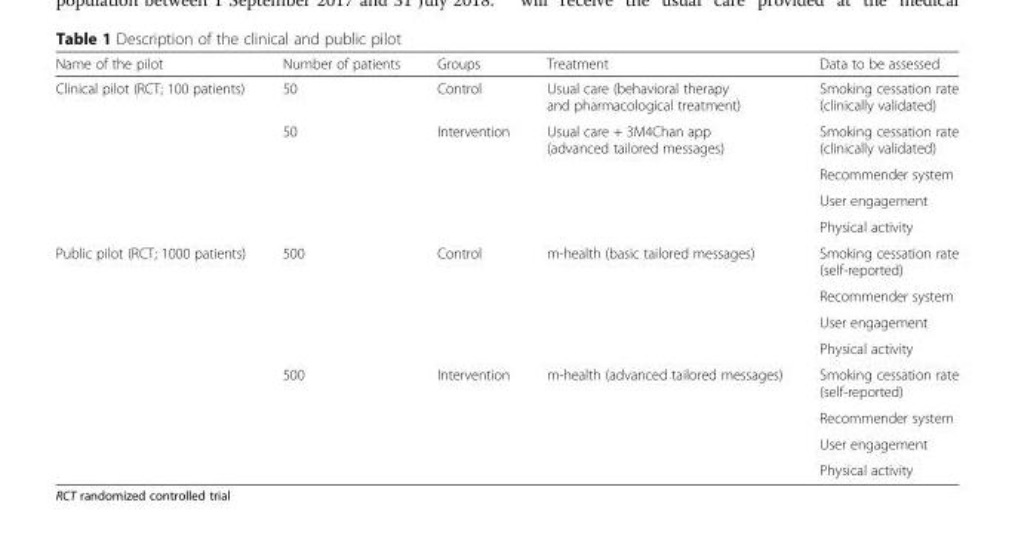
<table><thead><tr><td>Name of the pilot</td><td>Number of patients</td><td>Groups</td><td>Treatment</td><td>Data to be assessed</td></tr></thead><tbody><tr><td rowspan="5">Clinical pilot (RCT; 100 patients)</td><td>50</td><td>Control</td><td>Usual care (behavioral therapy and pharmacological treatment)</td><td>Smoking cessation rate (clinically validated)</td></tr><tr><td rowspan="4">50</td><td rowspan="4">Intervention</td><td rowspan="4">Usual care + 3M4Chan app (advanced tailored messages)</td><td>Smoking cessation rate (clinically validated)</td></tr><tr><td>Recommender system</td></tr><tr><td>User engagement</td></tr><tr><td>Physical activity</td></tr><tr><td rowspan="8">Public pilot (RCT; 1000 patients)</td><td rowspan="4">500</td><td rowspan="4">Control</td><td rowspan="4">m-health (basic tailored messages)</td><td>Smoking cessation rate (self-reported)</td></tr><tr><td>Recommender system</td></tr><tr><td>User engagement</td></tr><tr><td>Physical activity</td></tr><tr><td rowspan="4">500</td><td rowspan="4">Intervention</td><td rowspan="4">m-health (advanced tailored messages)</td><td>Smoking cessation rate (self-reported)</td></tr><tr><td>Recommender system</td></tr><tr><td>User engagement</td></tr><tr><td>Physical activity</td></tr></tbody></table>